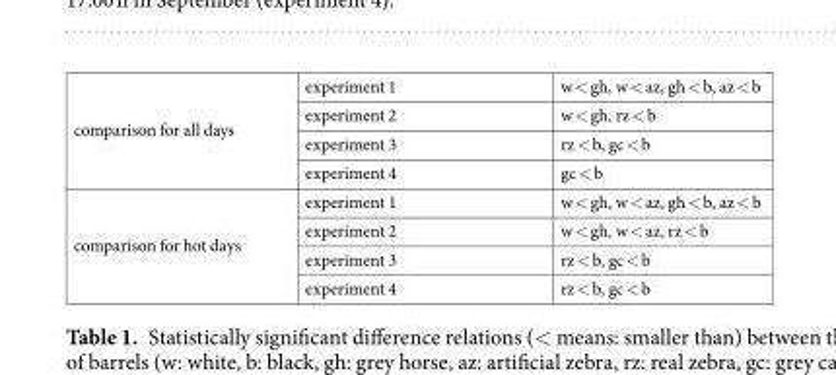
<table><tbody><tr><td rowspan="4">comparison for all days</td><td>experiment 1</td><td>w &lt; gh, w &lt; az, gh &lt; b, az &lt; b</td></tr><tr><td>experiment 2</td><td>w &lt; gh, rz &lt; b</td></tr><tr><td>experiment 3</td><td>rz &lt; b, gc &lt; b</td></tr><tr><td>experiment 4</td><td>gc &lt; b</td></tr><tr><td rowspan="4">comparison for hot days</td><td>experiment 1</td><td>w &lt; gh, w &lt; az, gh &lt; b, az &lt; b</td></tr><tr><td>experiment 2</td><td>w &lt; gh, w &lt; az, rz &lt; b</td></tr><tr><td>experiment 3</td><td>rz &lt; b, gc &lt; b</td></tr><tr><td>experiment 4</td><td>rz &lt; b, gc &lt; b</td></tr></tbody></table>